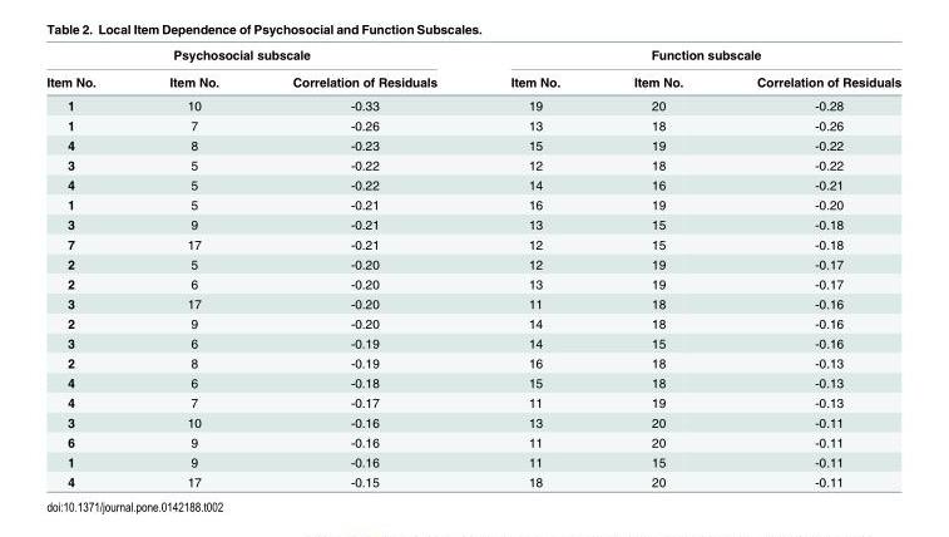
<table><thead><tr><td colspan="3">Psychosocial subscale</td><td colspan="3">Function subscale</td></tr><tr><td>Item No.</td><td>Item No.</td><td>Correlation of Residuals</td><td>Item No.</td><td>Item No.</td><td>Correlation of Residuals</td></tr></thead><tbody><tr><td>1</td><td>10</td><td>-0.33</td><td>19</td><td>20</td><td>-0.28</td></tr><tr><td>1</td><td>7</td><td>-0.26</td><td>13</td><td>18</td><td>-0.26</td></tr><tr><td>4</td><td>8</td><td>-0.23</td><td>15</td><td>19</td><td>-0.22</td></tr><tr><td>3</td><td>5</td><td>-0.22</td><td>12</td><td>18</td><td>-0.22</td></tr><tr><td>4</td><td>5</td><td>-0.22</td><td>14</td><td>16</td><td>-0.21</td></tr><tr><td>1</td><td>5</td><td>-0.21</td><td>16</td><td>19</td><td>-0.20</td></tr><tr><td>3</td><td>9</td><td>-0.21</td><td>13</td><td>15</td><td>-0.18</td></tr><tr><td>7</td><td>17</td><td>-0.21</td><td>12</td><td>15</td><td>-0.18</td></tr><tr><td>2</td><td>5</td><td>-0.20</td><td>12</td><td>19</td><td>-0.17</td></tr><tr><td>2</td><td>6</td><td>-0.20</td><td>13</td><td>19</td><td>-0.17</td></tr><tr><td>3</td><td>17</td><td>-0.20</td><td>11</td><td>18</td><td>-0.16</td></tr><tr><td>2</td><td>9</td><td>-0.20</td><td>14</td><td>18</td><td>-0.16</td></tr><tr><td>3</td><td>6</td><td>-0.19</td><td>14</td><td>15</td><td>-0.16</td></tr><tr><td>2</td><td>8</td><td>-0.19</td><td>16</td><td>18</td><td>-0.13</td></tr><tr><td>4</td><td>6</td><td>-0.18</td><td>15</td><td>18</td><td>-0.13</td></tr><tr><td>4</td><td>7</td><td>-0.17</td><td>11</td><td>19</td><td>-0.13</td></tr><tr><td>3</td><td>10</td><td>-0.16</td><td>13</td><td>20</td><td>-0.11</td></tr><tr><td>6</td><td>9</td><td>-0.16</td><td>11</td><td>20</td><td>-0.11</td></tr><tr><td>1</td><td>9</td><td>-0.16</td><td>11</td><td>15</td><td>-0.11</td></tr><tr><td>4</td><td>17</td><td>-0.15</td><td>18</td><td>20</td><td>-0.11</td></tr></tbody></table>